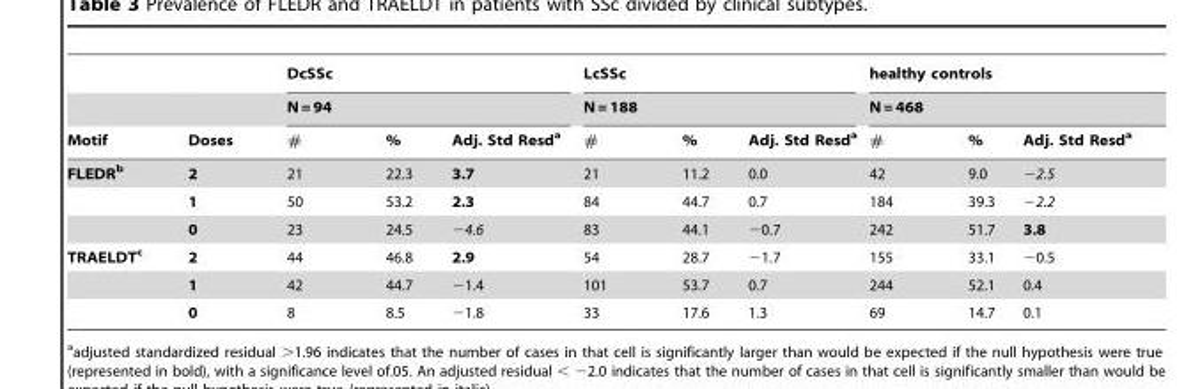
<table><thead><tr><td rowspan="3">Motif</td><td rowspan="3">Doses</td><td rowspan="2" colspan="3">DcSSc N = 94</td><td rowspan="2" colspan="3">LcSSc N = 188</td><td rowspan="2" colspan="3">healthy controls N = 468</td></tr><tr></tr><tr><td>#</td><td>%</td><td>Adj. Std Resd<sup>a</sup></td><td>#</td><td>%</td><td>Adj. Std Resd<sup>a</sup></td><td>#</td><td>%</td><td>Adj. Std Resd<sup>a</sup></td></tr></thead><tbody><tr><td rowspan="3">FLEDRb</td><td>2</td><td>21</td><td>22.3</td><td>3.7</td><td>21</td><td>11.2</td><td>0.0</td><td>42</td><td>9.0</td><td>−2.5</td></tr><tr><td>1</td><td>50</td><td>53.2</td><td>2.3</td><td>84</td><td>44.7</td><td>0.7</td><td>184</td><td>39.3</td><td>−2.2</td></tr><tr><td>0</td><td>23</td><td>24.5</td><td>−4.6</td><td>83</td><td>44.1</td><td>−0.7</td><td>242</td><td>51.7</td><td>3.8</td></tr><tr><td rowspan="3">TRAELDTc</td><td>2</td><td>44</td><td>46.8</td><td>2.9</td><td>54</td><td>28.7</td><td>−1.7</td><td>155</td><td>33.1</td><td>−0.5</td></tr><tr><td>1</td><td>42</td><td>44.7</td><td>−1.4</td><td>101</td><td>53.7</td><td>0.7</td><td>244</td><td>52.1</td><td>0.4</td></tr><tr><td>0</td><td>8</td><td>8.5</td><td>−1.8</td><td>33</td><td>17.6</td><td>1.3</td><td>69</td><td>14.7</td><td>0.1</td></tr></tbody></table>